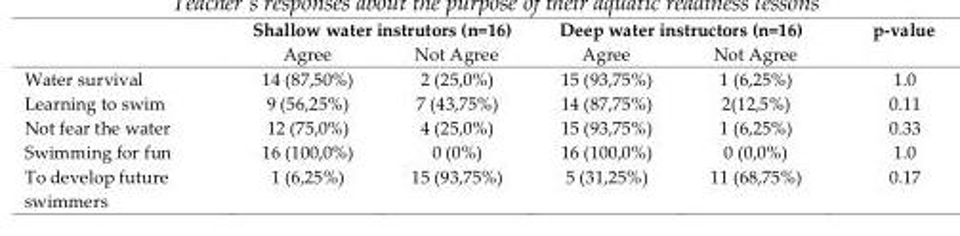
<table><thead><tr><td rowspan="2"></td><td colspan="2">Shallow water instrutors (n=16)</td><td colspan="2">Deep water instructors (n=16)</td><td rowspan="2">p-value</td></tr><tr><td>Agree</td><td>Not Agree</td><td>Agree</td><td>Not Agree</td></tr></thead><tbody><tr><td>Water survival</td><td>14 (87,50%)</td><td>2 (25,0%)</td><td>15 (93,75%)</td><td>1 (6,25%)</td><td>1.0</td></tr><tr><td>Learning to swim</td><td>9 (56,25%)</td><td>7 (43,75%)</td><td>14 (87,75%)</td><td>2(12,5%)</td><td>0.11</td></tr><tr><td>Not fear the water</td><td>12 (75,0%)</td><td>4 (25,0%)</td><td>15 (93,75%)</td><td>1 (6,25%)</td><td>0.33</td></tr><tr><td>Swimming for fun</td><td>16 (100,0%)</td><td>0 (0%)</td><td>16 (100,0%)</td><td>0 (0,0%)</td><td>1.0</td></tr><tr><td>To develop future swimmers</td><td>1 (6,25%)</td><td>15 (93,75%)</td><td>5 (31,25%)</td><td>11 (68,75%)</td><td>0.17</td></tr></tbody></table>